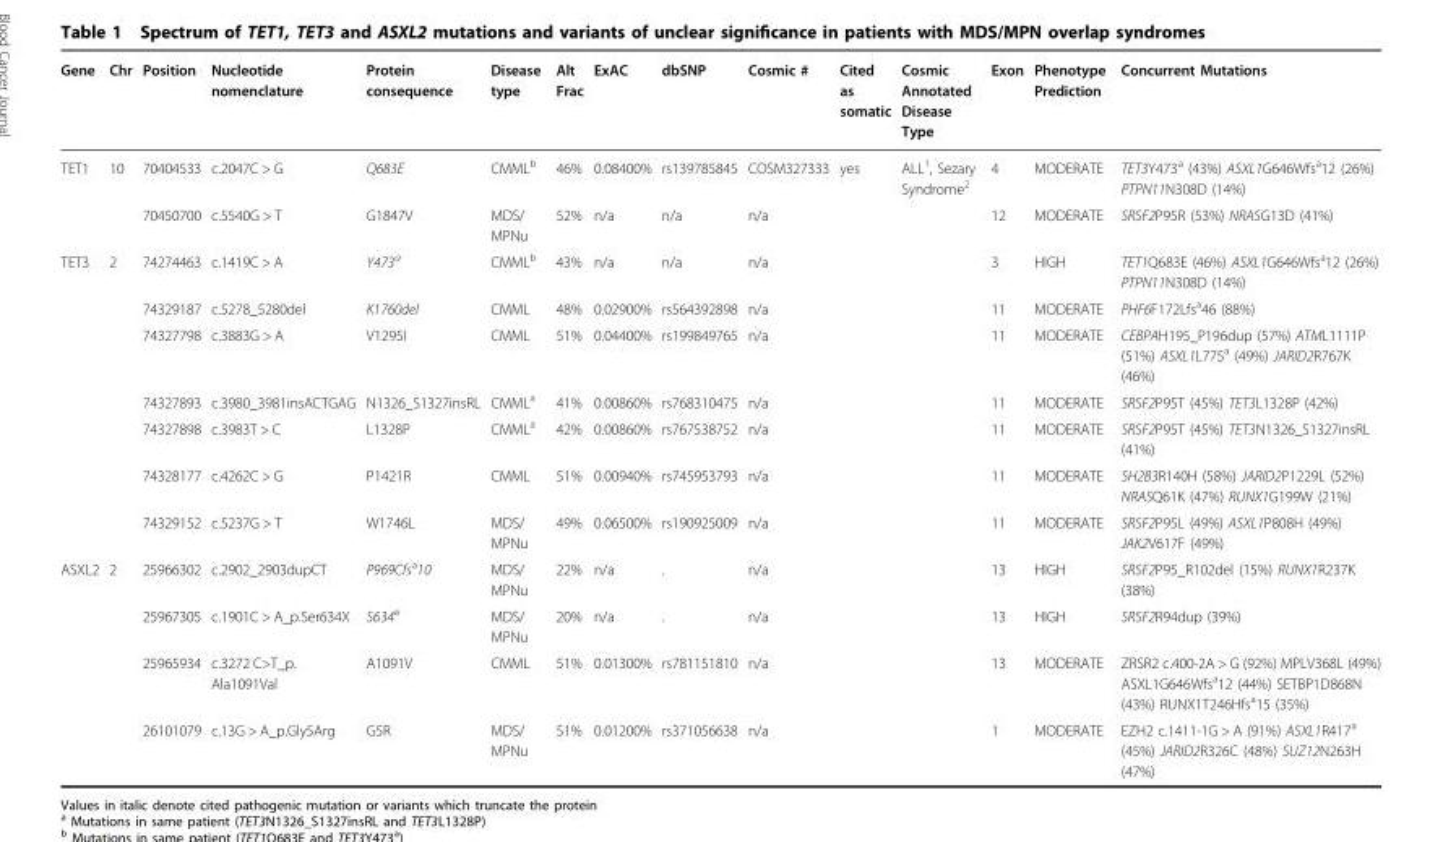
<table><thead><tr><td>Gene</td><td>Chr</td><td>Position</td><td>Nucleotide nomenclature</td><td>Protein consequence</td><td>Disease type</td><td>Alt Frac</td><td>ExAC</td><td>dbSNP</td><td>Cosmic #</td><td>Cited as somatic</td><td>Cosmic Annotated Disease Type</td><td>Exon</td><td>Phenotype Prediction</td><td>Concurrent Mutations</td></tr></thead><tbody><tr><td rowspan="2">TET1</td><td>10</td><td>70404533</td><td>c.2047C &gt; G</td><td>Q683E</td><td>CMML<sup>b</sup></td><td>46%</td><td>0.08400%</td><td>rs139785845</td><td>COSM327333</td><td>yes</td><td>ALL<sup>1</sup>, Sezary Syndrome<sup>2</sup></td><td>4</td><td>MODERATE</td><td>TET3Y473<sup>a</sup> (43%) ASXL1G646Wfs<sup>a</sup>12 (26%) PTPN11N308D (14%)</td></tr><tr><td></td><td>70450700</td><td>c.5540G &gt; T</td><td>G1847V</td><td>MDS/ MPNu</td><td>52%</td><td>n/a</td><td>n/a</td><td>n/a</td><td></td><td></td><td>12</td><td>MODERATE</td><td>SRSF2P95R (53%) NRASG13D (41%)</td></tr><tr><td rowspan="7">TET3</td><td>2</td><td>74274463</td><td>c.1419C &gt; A</td><td>Y473<sup>a</sup></td><td>CMML<sup>b</sup></td><td>43%</td><td>n/a</td><td>n/a</td><td>n/a</td><td></td><td></td><td>3</td><td>HIGH</td><td>TET1Q683E (46%) ASXL1G646Wfs<sup>a</sup>12 (26%) PTPN11N308D (14%)</td></tr><tr><td></td><td>74329187</td><td>c.5278_5280del</td><td>K1760del</td><td>CMML</td><td>48%</td><td>0.02900%</td><td>rs564392898</td><td>n/a</td><td></td><td></td><td>11</td><td>MODERATE</td><td>PHF6F172Lfs<sup>a</sup>46 (88%)</td></tr><tr><td></td><td>74327798</td><td>c.3883G &gt; A</td><td>V1295I</td><td>CMML</td><td>51%</td><td>0.04400%</td><td>rs199849765</td><td>n/a</td><td></td><td></td><td>11</td><td>MODERATE</td><td>CEBPAH195_P196dup (57%) ATML1111P (51%) ASXL1L775<sup>a</sup> (49%) JARID2R767K (46%)</td></tr><tr><td></td><td>74327893</td><td>c.3980_3981insACTGAG</td><td>N1326_S1327insRL</td><td>CMML<sup>a</sup></td><td>41%</td><td>0.00860%</td><td>rs768310475</td><td>n/a</td><td></td><td></td><td>11</td><td>MODERATE</td><td>SRSF2P95T (45%) TET3L1328P (42%)</td></tr><tr><td></td><td>74327898</td><td>c.3983T &gt; C</td><td>L1328P</td><td>CMML<sup>a</sup></td><td>42%</td><td>0.00860%</td><td>rs767538752</td><td>n/a</td><td></td><td></td><td>11</td><td>MODERATE</td><td>SRSF2P95T (45%) TET3N1326_S1327insRL (41%)</td></tr><tr><td></td><td>74328177</td><td>c.4262C &gt; G</td><td>P1421R</td><td>CMML</td><td>51%</td><td>0.00940%</td><td>rs745953793</td><td>n/a</td><td></td><td></td><td>11</td><td>MODERATE</td><td>SH2B3R140H (58%) JARID2P1229L (52%) NRASQ61K (47%) RUNX1G199W (21%)</td></tr><tr><td></td><td>74329152</td><td>c.5237G &gt; T</td><td>W1746L</td><td>MDS/ MPNu</td><td>49%</td><td>0.06500%</td><td>rs190925009</td><td>n/a</td><td></td><td></td><td>11</td><td>MODERATE</td><td>SRSF2P95L (49%) ASXL1P808H (49%) JAK2V617F (49%)</td></tr><tr><td rowspan="4">ASXL2</td><td>2</td><td>25966302</td><td>c.2902_2903dupCT</td><td>P969Cfs<sup>a</sup>10</td><td>MDS/ MPNu</td><td>22%</td><td>n/a</td><td>.</td><td>n/a</td><td></td><td></td><td>13</td><td>HIGH</td><td>SRSF2P95_R102del (15%) RUNX1R237K (38%)</td></tr><tr><td></td><td>25967305</td><td>c.1901C &gt; A_p.Ser634X</td><td>S634<sup>a</sup></td><td>MDS/ MPNu</td><td>20%</td><td>n/a</td><td>.</td><td>n/a</td><td></td><td></td><td>13</td><td>HIGH</td><td>SRSF2R94dup (39%)</td></tr><tr><td></td><td>25965934</td><td>c.3272 C&gt;T_p. Ala1091Val</td><td>A1091V</td><td>CMML</td><td>51%</td><td>0.01300%</td><td>rs781151810</td><td>n/a</td><td></td><td></td><td>13</td><td>MODERATE</td><td>ZRSR2 c.400-2A &gt; G (92%) MPLV368L (49%) ASXL1G646Wfs<sup>a</sup>12 (44%) SETBP1D868N (43%) RUNX1T246Hfs<sup>a</sup>15 (35%)</td></tr><tr><td></td><td>26101079</td><td>c.13G &gt; A_p.Gly5Arg</td><td>G5R</td><td>MDS/ MPNu</td><td>51%</td><td>0.01200%</td><td>rs371056638</td><td>n/a</td><td></td><td></td><td>1</td><td>MODERATE</td><td>EZH2 c.1411-1G &gt; A (91%) ASXL1R417<sup>a</sup> (45%) JARID2R326C (48%) SUZ12N263H (47%)</td></tr></tbody></table>